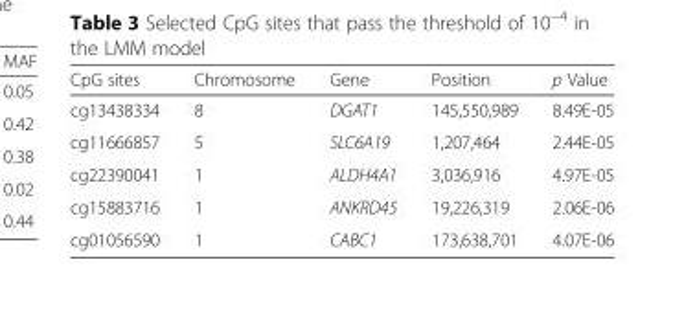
<table><thead><tr><td>CpG sites</td><td>Chromosome</td><td>Gene</td><td>Position</td><td>p Value</td></tr></thead><tbody><tr><td>cg13438334</td><td>8</td><td>DGAT1</td><td>145,550,989</td><td>8.49E-05</td></tr><tr><td>cg11666857</td><td>5</td><td>SLC6A19</td><td>1,207,464</td><td>2.44E-05</td></tr><tr><td>cg22390041</td><td>1</td><td>ALDH4A1</td><td>3,036,916</td><td>4.97E-05</td></tr><tr><td>cg15883716</td><td>1</td><td>ANKRD45</td><td>19,226,319</td><td>2.06E-06</td></tr><tr><td>cg01056590</td><td>1</td><td>CABC1</td><td>173,638,701</td><td>4.07E-06</td></tr></tbody></table>